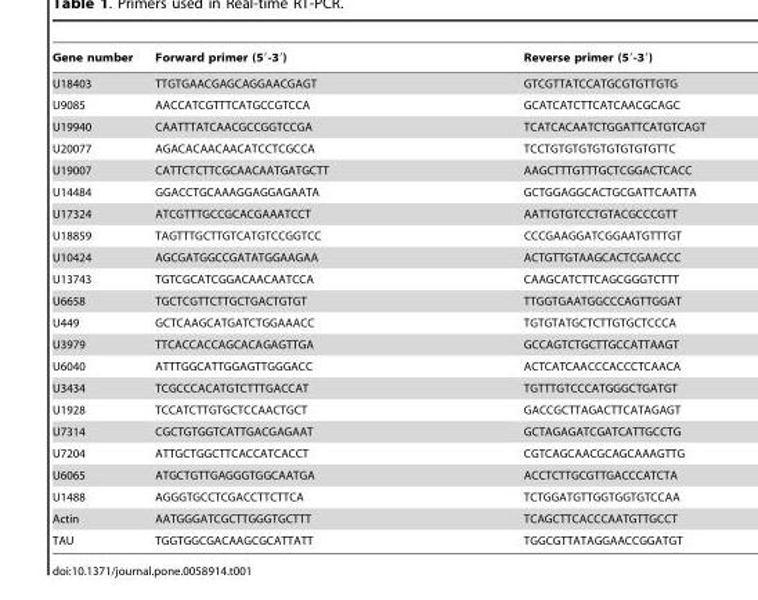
<table><thead><tr><td>Gene number</td><td>Forward primer (5′-3′)</td><td>Reverse primer (5′-3′)</td></tr></thead><tbody><tr><td>U18403</td><td>TTGTGAACGAGCAGGAACGAGT</td><td>GTCGTTATCCATGCGTGTTGTG</td></tr><tr><td>U9085</td><td>AACCATCGTTTCATGCCGTCCA</td><td>GCATCATCTTCATCAACGCAGC</td></tr><tr><td>U19940</td><td>CAATTTATCAACGCCGGTCCGA</td><td>TCATCACAATCTGGATTCATGTCAGT</td></tr><tr><td>U20077</td><td>AGACACAACAACATCCTCGCCA</td><td>TCCTGTGTGTGTGTGTGTGTTC</td></tr><tr><td>U19007</td><td>CATTCTCTTCGCAACAATGATGCTT</td><td>AAGCTTTGTTTGCTCGGACTCACC</td></tr><tr><td>U14484</td><td>GGACCTGCAAAGGAGGAGAATA</td><td>GCTGGAGGCACTGCGATTCAATTA</td></tr><tr><td>U17324</td><td>ATCGTTTGCCGCACGAAATCCT</td><td>AATTGTGTCCTGTACGCCCGTT</td></tr><tr><td>U18859</td><td>TAGTTTGCTTGTCATGTCCGGTCC</td><td>CCCGAAGGATCGGAATGTTTGT</td></tr><tr><td>U10424</td><td>AGCGATGGCCGATATGGAAGAA</td><td>ACTGTTGTAAGCACTCGAACCC</td></tr><tr><td>U13743</td><td>TGTCGCATCGGACAACAATCCA</td><td>CAAGCATCTTCAGCGGGTCTTT</td></tr><tr><td>U6658</td><td>TGCTCGTTCTTGCTGACTGTGT</td><td>TTGGTGAATGGCCCAGTTGGAT</td></tr><tr><td>U449</td><td>GCTCAAGCATGATCTGGAAACC</td><td>TGTGTATGCTCTTGTGCTCCCA</td></tr><tr><td>U3979</td><td>TTCACCACCAGCACAGAGTTGA</td><td>GCCAGTCTGCTTGCCATTAAGT</td></tr><tr><td>U6040</td><td>ATTTGGCATTGGAGTTGGGACC</td><td>ACTCATCAACCCACCCTCAACA</td></tr><tr><td>U3434</td><td>TCGCCCACATGTCTTTGACCAT</td><td>TGTTTGTCCCATGGGCTGATGT</td></tr><tr><td>U1928</td><td>TCCATCTTGTGCTCCAACTGCT</td><td>GACCGCTTAGACTTCATAGAGT</td></tr><tr><td>U7314</td><td>CGCTGTGGTCATTGACGAGAAT</td><td>GCTAGAGATCGATCATTGCCTG</td></tr><tr><td>U7204</td><td>ATTGCTGGCTTCACCATCACCT</td><td>CGTCAGCAACGCAGCAAAGTTG</td></tr><tr><td>U6065</td><td>ATGCTGTTGAGGGTGGCAATGA</td><td>ACCTCTTGCGTTGACCCATCTA</td></tr><tr><td>U1488</td><td>AGGGTGCCTCGACCTTCTTCA</td><td>TCTGGATGTTGGTGGTGTCCAA</td></tr><tr><td>Actin</td><td>AATGGGATCGCTTGGGTGCTTT</td><td>TCAGCTTCACCCAATGTTGCCT</td></tr><tr><td>TAU</td><td>TGGTGGCGACAAGCGCATTATT</td><td>TGGCGTTATAGGAACCGGATGT</td></tr></tbody></table>